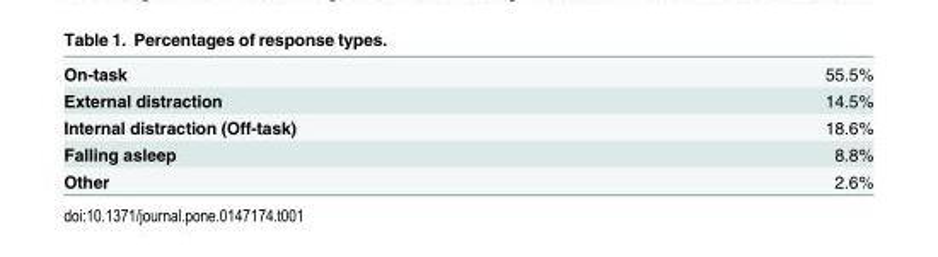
<table><tbody><tr><td>On-task</td><td>55.5%</td></tr><tr><td>External distraction</td><td>14.5%</td></tr><tr><td>Internal distraction (Off-task)</td><td>18.6%</td></tr><tr><td>Falling asleep</td><td>8.8%</td></tr><tr><td>Other</td><td>2.6%</td></tr></tbody></table>